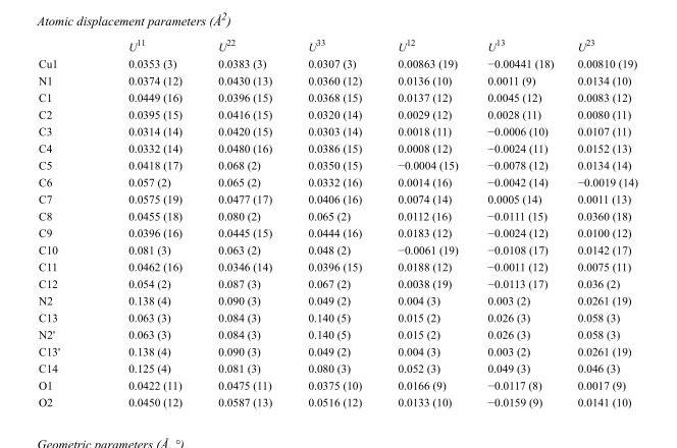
<table><thead><tr><td></td><td>U<sup>11</sup></td><td>U<sup>22</sup></td><td>U<sup>33</sup></td><td>U<sup>12</sup></td><td>U<sup>13</sup></td><td>U<sup>23</sup></td></tr></thead><tbody><tr><td>Cu1</td><td>0.0353 (3)</td><td>0.0383 (3)</td><td>0.0307 (3)</td><td>0.00863 (19)</td><td>−0.00441 (18)</td><td>0.00810 (19)</td></tr><tr><td>N1</td><td>0.0374 (12)</td><td>0.0430 (13)</td><td>0.0360 (12)</td><td>0.0136 (10)</td><td>0.0011 (9)</td><td>0.0134 (10)</td></tr><tr><td>C1</td><td>0.0449 (16)</td><td>0.0396 (15)</td><td>0.0368 (15)</td><td>0.0137 (12)</td><td>0.0045 (12)</td><td>0.0083 (12)</td></tr><tr><td>C2</td><td>0.0395 (15)</td><td>0.0416 (15)</td><td>0.0320 (14)</td><td>0.0029 (12)</td><td>0.0028 (11)</td><td>0.0080 (11)</td></tr><tr><td>C3</td><td>0.0314 (14)</td><td>0.0420 (15)</td><td>0.0303 (14)</td><td>0.0018 (11)</td><td>−0.0006 (10)</td><td>0.0107 (11)</td></tr><tr><td>C4</td><td>0.0332 (14)</td><td>0.0480 (16)</td><td>0.0386 (15)</td><td>0.0008 (12)</td><td>−0.0024 (11)</td><td>0.0152 (13)</td></tr><tr><td>C5</td><td>0.0418 (17)</td><td>0.068 (2)</td><td>0.0350 (15)</td><td>−0.0004 (15)</td><td>−0.0078 (12)</td><td>0.0134 (14)</td></tr><tr><td>C6</td><td>0.057 (2)</td><td>0.065 (2)</td><td>0.0332 (16)</td><td>0.0014 (16)</td><td>−0.0042 (14)</td><td>−0.0019 (14)</td></tr><tr><td>C7</td><td>0.0575 (19)</td><td>0.0477 (17)</td><td>0.0406 (16)</td><td>0.0074 (14)</td><td>0.0005 (14)</td><td>0.0011 (13)</td></tr><tr><td>C8</td><td>0.0455 (18)</td><td>0.080 (2)</td><td>0.065 (2)</td><td>0.0112 (16)</td><td>−0.0111 (15)</td><td>0.0360 (18)</td></tr><tr><td>C9</td><td>0.0396 (16)</td><td>0.0445 (15)</td><td>0.0444 (16)</td><td>0.0183 (12)</td><td>−0.0024 (12)</td><td>0.0100 (12)</td></tr><tr><td>C10</td><td>0.081 (3)</td><td>0.063 (2)</td><td>0.048 (2)</td><td>−0.0061 (19)</td><td>−0.0108 (17)</td><td>0.0142 (17)</td></tr><tr><td>C11</td><td>0.0462 (16)</td><td>0.0346 (14)</td><td>0.0396 (15)</td><td>0.0188 (12)</td><td>−0.0011 (12)</td><td>0.0075 (11)</td></tr><tr><td>C12</td><td>0.054 (2)</td><td>0.087 (3)</td><td>0.067 (2)</td><td>0.0038 (19)</td><td>−0.0113 (17)</td><td>0.036 (2)</td></tr><tr><td>N2</td><td>0.138 (4)</td><td>0.090 (3)</td><td>0.049 (2)</td><td>0.004 (3)</td><td>0.003 (2)</td><td>0.0261 (19)</td></tr><tr><td>C13</td><td>0.063 (3)</td><td>0.084 (3)</td><td>0.140 (5)</td><td>0.015 (2)</td><td>0.026 (3)</td><td>0.058 (3)</td></tr><tr><td>N2&#x27;</td><td>0.063 (3)</td><td>0.084 (3)</td><td>0.140 (5)</td><td>0.015 (2)</td><td>0.026 (3)</td><td>0.058 (3)</td></tr><tr><td>C13&#x27;</td><td>0.138 (4)</td><td>0.090 (3)</td><td>0.049 (2)</td><td>0.004 (3)</td><td>0.003 (2)</td><td>0.0261 (19)</td></tr><tr><td>C14</td><td>0.125 (4)</td><td>0.081 (3)</td><td>0.080 (3)</td><td>0.052 (3)</td><td>0.049 (3)</td><td>0.046 (3)</td></tr><tr><td>O1</td><td>0.0422 (11)</td><td>0.0475 (11)</td><td>0.0375 (10)</td><td>0.0166 (9)</td><td>−0.0117 (8)</td><td>0.0017 (9)</td></tr><tr><td>O2</td><td>0.0450 (12)</td><td>0.0587 (13)</td><td>0.0516 (12)</td><td>0.0133 (10)</td><td>−0.0159 (9)</td><td>0.0141 (10)</td></tr></tbody></table>